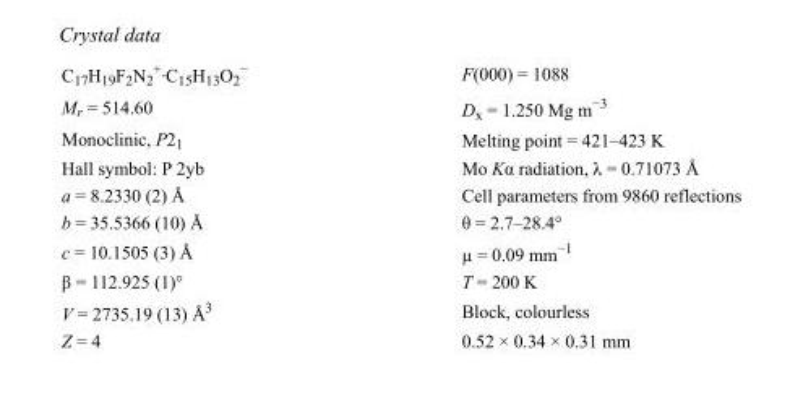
<table><tbody><tr><td>C<sub>17</sub>H<sub>19</sub>F<sub>2</sub>N<sub>2</sub> <sup>+</sup>·C<sub>15</sub>H<sub>13</sub>O<sub>2</sub> <sup>−</sup></td><td>F(000) = 1088</td></tr><tr><td>M<sub>r</sub> = 514.60</td><td>D<sub>x</sub> = 1.250 Mg m<sup>−3</sup></td></tr><tr><td>Monoclinic, P2<sub>1</sub></td><td>Melting point = 421–423 K</td></tr><tr><td>Hall symbol: P 2yb</td><td>Mo Kα radiation, λ = 0.71073 Å</td></tr><tr><td>a = 8.2330 (2) Å</td><td>Cell parameters from 9860 reflections</td></tr><tr><td>b = 35.5366 (10) Å</td><td>θ = 2.7–28.4°</td></tr><tr><td>c = 10.1505 (3) Å</td><td>µ = 0.09 mm<sup>−1</sup></td></tr><tr><td>β = 112.925 (1)°</td><td>T = 200 K</td></tr><tr><td>V = 2735.19 (13) Å<sup>3</sup></td><td>Block, colourless</td></tr><tr><td>Z = 4</td><td>0.52 × 0.34 × 0.31 mm</td></tr></tbody></table>